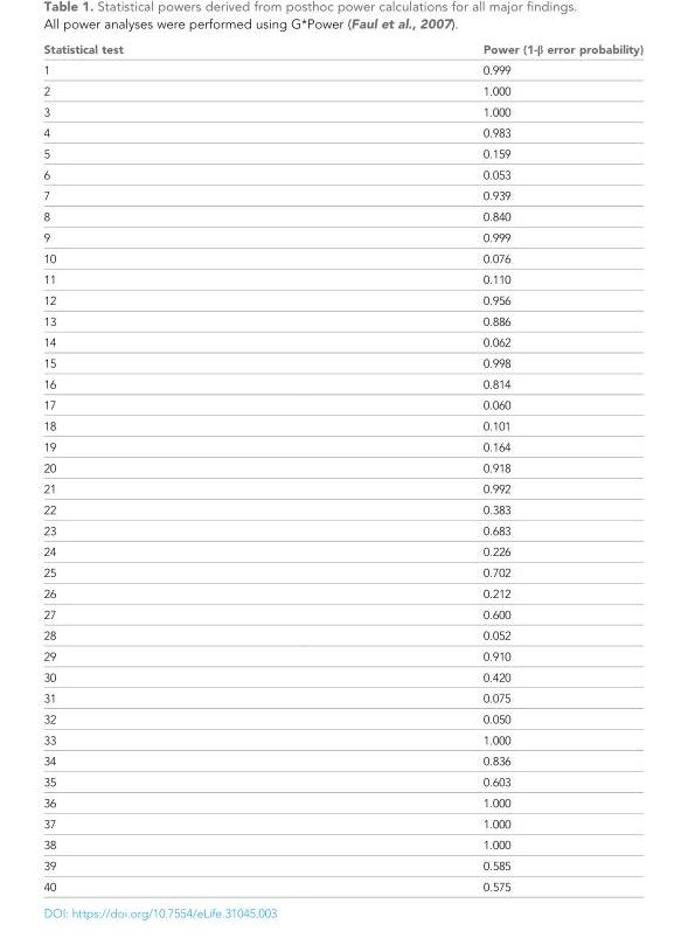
<table><thead><tr><td>Statistical test</td><td>Power (1-β error probability)</td></tr></thead><tbody><tr><td>1</td><td>0.999</td></tr><tr><td>2</td><td>1.000</td></tr><tr><td>3</td><td>1.000</td></tr><tr><td>4</td><td>0.983</td></tr><tr><td>5</td><td>0.159</td></tr><tr><td>6</td><td>0.053</td></tr><tr><td>7</td><td>0.939</td></tr><tr><td>8</td><td>0.840</td></tr><tr><td>9</td><td>0.999</td></tr><tr><td>10</td><td>0.076</td></tr><tr><td>11</td><td>0.110</td></tr><tr><td>12</td><td>0.956</td></tr><tr><td>13</td><td>0.886</td></tr><tr><td>14</td><td>0.062</td></tr><tr><td>15</td><td>0.998</td></tr><tr><td>16</td><td>0.814</td></tr><tr><td>17</td><td>0.060</td></tr><tr><td>18</td><td>0.101</td></tr><tr><td>19</td><td>0.164</td></tr><tr><td>20</td><td>0.918</td></tr><tr><td>21</td><td>0.992</td></tr><tr><td>22</td><td>0.383</td></tr><tr><td>23</td><td>0.683</td></tr><tr><td>24</td><td>0.226</td></tr><tr><td>25</td><td>0.702</td></tr><tr><td>26</td><td>0.212</td></tr><tr><td>27</td><td>0.600</td></tr><tr><td>28</td><td>0.052</td></tr><tr><td>29</td><td>0.910</td></tr><tr><td>30</td><td>0.420</td></tr><tr><td>31</td><td>0.075</td></tr><tr><td>32</td><td>0.050</td></tr><tr><td>33</td><td>1.000</td></tr><tr><td>34</td><td>0.836</td></tr><tr><td>35</td><td>0.603</td></tr><tr><td>36</td><td>1.000</td></tr><tr><td>37</td><td>1.000</td></tr><tr><td>38</td><td>1.000</td></tr><tr><td>39</td><td>0.585</td></tr><tr><td>40</td><td>0.575</td></tr></tbody></table>